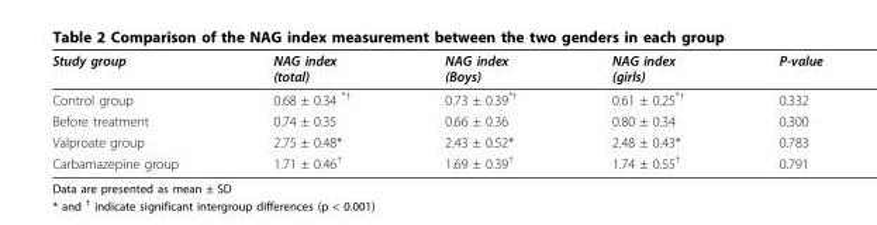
<table><thead><tr><td>Study group</td><td>NAG index (total)</td><td>NAG index (Boys)</td><td>NAG index (girls)</td><td>P-value</td></tr></thead><tbody><tr><td>Control group</td><td>0.68 ± 0.34 <sup>*†</sup></td><td>0.73 ± 0.39<sup>*†</sup></td><td>0.61 ± 0.25<sup>*†</sup></td><td>0.332</td></tr><tr><td>Before treatment</td><td>0.74 ± 0.35</td><td>0.66 ± 0.36</td><td>0.80 ± 0.34</td><td>0.300</td></tr><tr><td>Valproate group</td><td>2.75 ± 0.48*</td><td>2.43 ± 0.52*</td><td>2.48 ± 0.43*</td><td>0.783</td></tr><tr><td>Carbamazepine group</td><td>1.71 ± 0.46<sup>†</sup></td><td>1.69 ± 0.39<sup>†</sup></td><td>1.74 ± 0.55<sup>†</sup></td><td>0.791</td></tr></tbody></table>